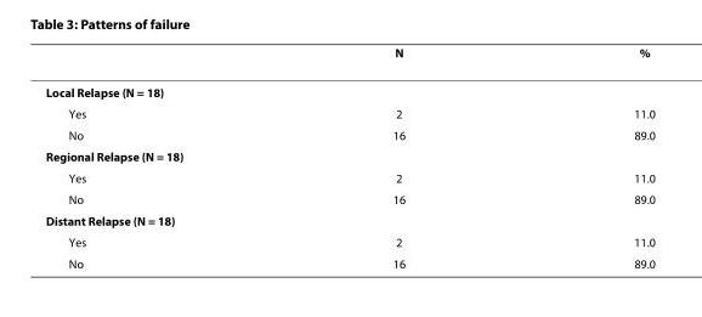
<table><thead><tr><td></td><td>N</td><td>%</td></tr></thead><tbody><tr><td colspan="3">Local Relapse (N = 18)</td></tr><tr><td>Yes</td><td>2</td><td>11.0</td></tr><tr><td>No</td><td>16</td><td>89.0</td></tr><tr><td colspan="3">Regional Relapse (N = 18)</td></tr><tr><td>Yes</td><td>2</td><td>11.0</td></tr><tr><td>No</td><td>16</td><td>89.0</td></tr><tr><td colspan="3">Distant Relapse (N = 18)</td></tr><tr><td>Yes</td><td>2</td><td>11.0</td></tr><tr><td>No</td><td>16</td><td>89.0</td></tr></tbody></table>